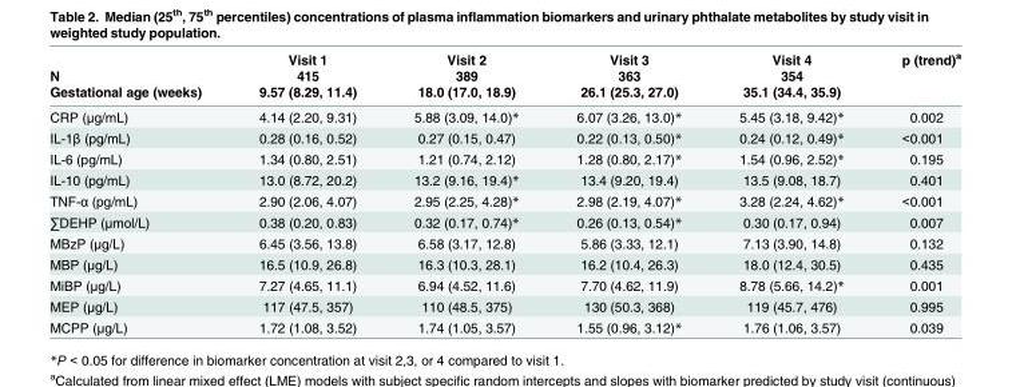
<table><thead><tr><td rowspan="3">N Gestational age (weeks)</td><td rowspan="3">Visit 1 415 9.57 (8.29, 11.4)</td><td rowspan="3">Visit 2 389 18.0 (17.0, 18.9)</td><td rowspan="3">Visit 3 363 26.1 (25.3, 27.0)</td><td rowspan="3">Visit 4 354 35.1 (34.4, 35.9)</td><td rowspan="3">p (trend)<sup>a</sup></td></tr><tr></tr><tr></tr></thead><tbody><tr><td>CRP (μg/mL)</td><td>4.14 (2.20, 9.31)</td><td>5.88 (3.09, 14.0)*</td><td>6.07 (3.26, 13.0)*</td><td>5.45 (3.18, 9.42)*</td><td>0.002</td></tr><tr><td>IL-1β (pg/mL)</td><td>0.28 (0.16, 0.52)</td><td>0.27 (0.15, 0.47)</td><td>0.22 (0.13, 0.50)*</td><td>0.24 (0.12, 0.49)*</td><td>&lt;0.001</td></tr><tr><td>IL-6 (pg/mL)</td><td>1.34 (0.80, 2.51)</td><td>1.21 (0.74, 2.12)</td><td>1.28 (0.80, 2.17)*</td><td>1.54 (0.96, 2.52)*</td><td>0.195</td></tr><tr><td>IL-10 (pg/mL)</td><td>13.0 (8.72, 20.2)</td><td>13.2 (9.16, 19.4)*</td><td>13.4 (9.20, 19.4)</td><td>13.5 (9.08, 18.7)</td><td>0.401</td></tr><tr><td>TNF-α (pg/mL)</td><td>2.90 (2.06, 4.07)</td><td>2.95 (2.25, 4.28)*</td><td>2.98 (2.19, 4.07)*</td><td>3.28 (2.24, 4.62)*</td><td>&lt;0.001</td></tr><tr><td>∑DEHP (μmol/L)</td><td>0.38 (0.20, 0.83)</td><td>0.32 (0.17, 0.74)*</td><td>0.26 (0.13, 0.54)*</td><td>0.30 (0.17, 0.94)</td><td>0.007</td></tr><tr><td>MBzP (μg/L)</td><td>6.45 (3.56, 13.8)</td><td>6.58 (3.17, 12.8)</td><td>5.86 (3.33, 12.1)</td><td>7.13 (3.90, 14.8)</td><td>0.132</td></tr><tr><td>MBP (μg/L)</td><td>16.5 (10.9, 26.8)</td><td>16.3 (10.3, 28.1)</td><td>16.2 (10.4, 26.3)</td><td>18.0 (12.4, 30.5)</td><td>0.435</td></tr><tr><td>MiBP (μg/L)</td><td>7.27 (4.65, 11.1)</td><td>6.94 (4.52, 11.6)</td><td>7.70 (4.62, 11.9)</td><td>8.78 (5.66, 14.2)*</td><td>0.001</td></tr><tr><td>MEP (μg/L)</td><td>117 (47.5, 357)</td><td>110 (48.5, 375)</td><td>130 (50.3, 368)</td><td>119 (45.7, 476)</td><td>0.995</td></tr><tr><td>MCPP (μg/L)</td><td>1.72 (1.08, 3.52)</td><td>1.74 (1.05, 3.57)</td><td>1.55 (0.96, 3.12)*</td><td>1.76 (1.06, 3.57)</td><td>0.039</td></tr></tbody></table>